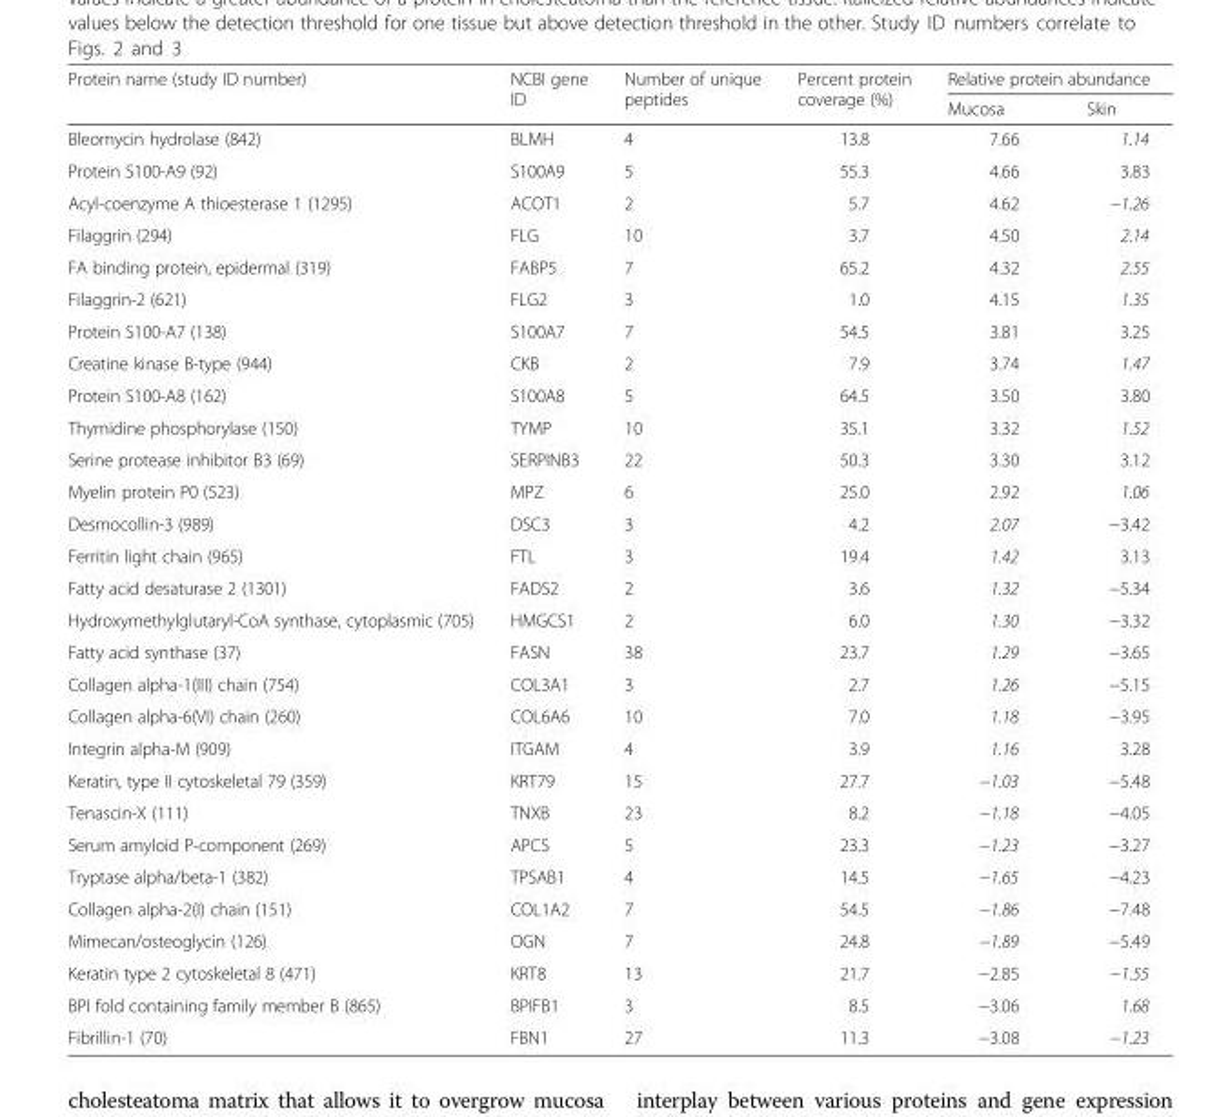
<table><thead><tr><td rowspan="2">Protein name (study ID number)</td><td rowspan="2">NCBI gene ID</td><td rowspan="2">Number of unique peptides</td><td rowspan="2">Percent protein coverage (%)</td><td colspan="2">Relative protein abundance</td></tr><tr><td>Mucosa</td><td>Skin</td></tr></thead><tbody><tr><td>Bleomycin hydrolase (842)</td><td>BLMH</td><td>4</td><td>13.8</td><td>7.66</td><td>1.14</td></tr><tr><td>Protein S100-A9 (92)</td><td>S100A9</td><td>5</td><td>55.3</td><td>4.66</td><td>3.83</td></tr><tr><td>Acyl-coenzyme A thioesterase 1 (1295)</td><td>ACOT1</td><td>2</td><td>5.7</td><td>4.62</td><td>−1.26</td></tr><tr><td>Filaggrin (294)</td><td>FLG</td><td>10</td><td>3.7</td><td>4.50</td><td>2.14</td></tr><tr><td>FA binding protein, epidermal (319)</td><td>FABP5</td><td>7</td><td>65.2</td><td>4.32</td><td>2.55</td></tr><tr><td>Filaggrin-2 (621)</td><td>FLG2</td><td>3</td><td>1.0</td><td>4.15</td><td>1.35</td></tr><tr><td>Protein S100-A7 (138)</td><td>S100A7</td><td>7</td><td>54.5</td><td>3.81</td><td>3.25</td></tr><tr><td>Creatine kinase B-type (944)</td><td>CKB</td><td>2</td><td>7.9</td><td>3.74</td><td>1.47</td></tr><tr><td>Protein S100-A8 (162)</td><td>S100A8</td><td>5</td><td>64.5</td><td>3.50</td><td>3.80</td></tr><tr><td>Thymidine phosphorylase (150)</td><td>TYMP</td><td>10</td><td>35.1</td><td>3.32</td><td>1.52</td></tr><tr><td>Serine protease inhibitor B3 (69)</td><td>SERPINB3</td><td>22</td><td>50.3</td><td>3.30</td><td>3.12</td></tr><tr><td>Myelin protein P0 (523)</td><td>MPZ</td><td>6</td><td>25.0</td><td>2.92</td><td>1.06</td></tr><tr><td>Desmocollin-3 (989)</td><td>DSC3</td><td>3</td><td>4.2</td><td>2.07</td><td>−3.42</td></tr><tr><td>Ferritin light chain (965)</td><td>FTL</td><td>3</td><td>19.4</td><td>1.42</td><td>3.13</td></tr><tr><td>Fatty acid desaturase 2 (1301)</td><td>FADS2</td><td>2</td><td>3.6</td><td>1.32</td><td>−5.34</td></tr><tr><td>Hydroxymethylglutaryl-CoA synthase, cytoplasmic (705)</td><td>HMGCS1</td><td>2</td><td>6.0</td><td>1.30</td><td>−3.32</td></tr><tr><td>Fatty acid synthase (37)</td><td>FASN</td><td>38</td><td>23.7</td><td>1.29</td><td>−3.65</td></tr><tr><td>Collagen alpha-1(III) chain (754)</td><td>COL3A1</td><td>3</td><td>2.7</td><td>1.26</td><td>−5.15</td></tr><tr><td>Collagen alpha-6(VI) chain (260)</td><td>COL6A6</td><td>10</td><td>7.0</td><td>1.18</td><td>−3.95</td></tr><tr><td>Integrin alpha-M (909)</td><td>ITGAM</td><td>4</td><td>3.9</td><td>1.16</td><td>3.28</td></tr><tr><td>Keratin, type II cytoskeletal 79 (359)</td><td>KRT79</td><td>15</td><td>27.7</td><td>−1.03</td><td>−5.48</td></tr><tr><td>Tenascin-X (111)</td><td>TNXB</td><td>23</td><td>8.2</td><td>−1.18</td><td>−4.05</td></tr><tr><td>Serum amyloid P-component (269)</td><td>APCS</td><td>5</td><td>23.3</td><td>−1.23</td><td>−3.27</td></tr><tr><td>Tryptase alpha/beta-1 (382)</td><td>TPSAB1</td><td>4</td><td>14.5</td><td>−1.65</td><td>−4.23</td></tr><tr><td>Collagen alpha-2(I) chain (151)</td><td>COL1A2</td><td>7</td><td>54.5</td><td>−1.86</td><td>−7.48</td></tr><tr><td>Mimecan/osteoglycin (126)</td><td>OGN</td><td>7</td><td>24.8</td><td>−1.89</td><td>−5.49</td></tr><tr><td>Keratin type 2 cytoskeletal 8 (471)</td><td>KRT8</td><td>13</td><td>21.7</td><td>−2.85</td><td>−1.55</td></tr><tr><td>BPI fold containing family member B (865)</td><td>BPIFB1</td><td>3</td><td>8.5</td><td>−3.06</td><td>1.68</td></tr><tr><td>Fibrillin-1 (70)</td><td>FBN1</td><td>27</td><td>11.3</td><td>−3.08</td><td>−1.23</td></tr></tbody></table>